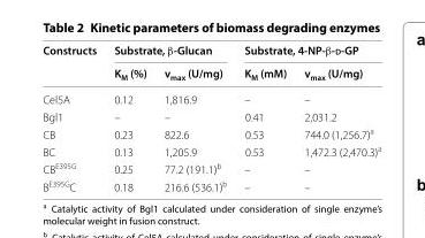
<table><thead><tr><td rowspan="2">Constructs</td><td colspan="2">Substrate, β‑Glucan</td><td colspan="2">Substrate, 4‑NP‑β‑d‑GP</td></tr><tr><td>K<sub>M</sub> (%)</td><td>v<sub>max</sub> (U/mg)</td><td>K<sub>M</sub> (mM)</td><td>v<sub>max</sub> (U/mg)</td></tr></thead><tbody><tr><td>Cel5A</td><td>0.12</td><td>1,816.9</td><td>–</td><td>–</td></tr><tr><td>Bgl1</td><td>–</td><td>–</td><td>0.41</td><td>2,031.2</td></tr><tr><td>CB</td><td>0.23</td><td>822.6</td><td>0.53</td><td>744.0 (1,256.7)<sup>a</sup></td></tr><tr><td>BC</td><td>0.13</td><td>1,205.9</td><td>0.53</td><td>1,472.3 (2,470.3)<sup>a</sup></td></tr><tr><td>CB<sup>E395G</sup></td><td>0.25</td><td>77.2 (191.1)<sup>b</sup></td><td>–</td><td>–</td></tr><tr><td>B<sup>E395G</sup>C</td><td>0.18</td><td>216.6 (536.1)<sup>b</sup></td><td>–</td><td>–</td></tr></tbody></table>